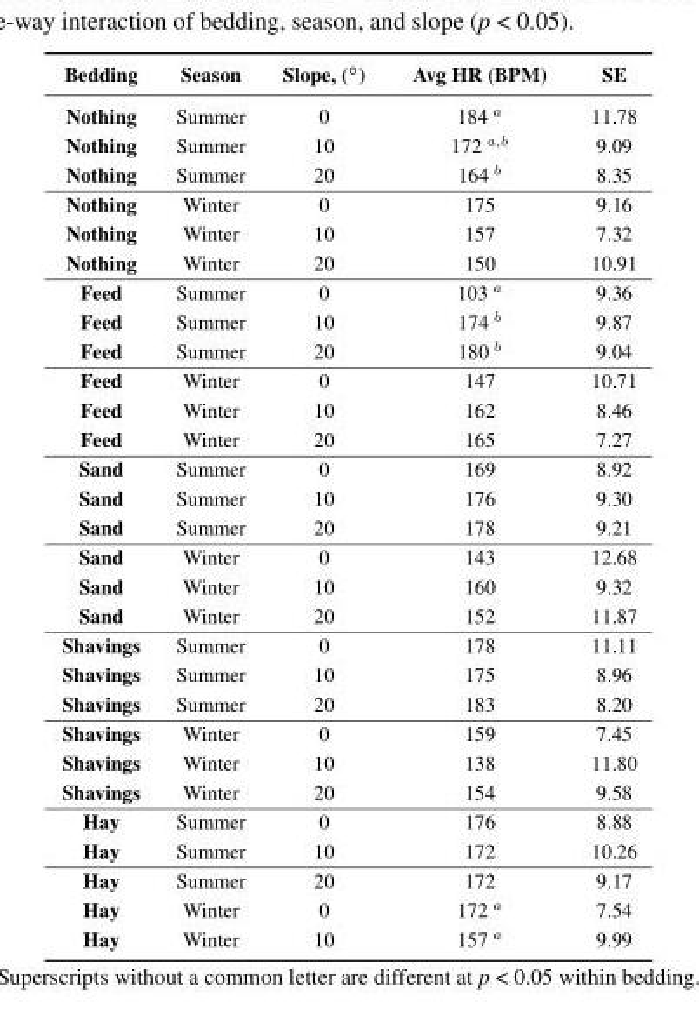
<table><thead><tr><td>Bedding</td><td>Season</td><td>Slope, (◦)</td><td>Avg HR (BPM)</td><td>SE</td></tr></thead><tbody><tr><td>Nothing</td><td>Summer</td><td>0</td><td>184 <sup>a</sup></td><td>11.78</td></tr><tr><td>Nothing</td><td>Summer</td><td>10</td><td>172 <sup>a,b</sup></td><td>9.09</td></tr><tr><td>Nothing</td><td>Summer</td><td>20</td><td>164 <sup>b</sup></td><td>8.35</td></tr><tr><td>Nothing</td><td>Winter</td><td>0</td><td>175</td><td>9.16</td></tr><tr><td>Nothing</td><td>Winter</td><td>10</td><td>157</td><td>7.32</td></tr><tr><td>Nothing</td><td>Winter</td><td>20</td><td>150</td><td>10.91</td></tr><tr><td>Feed</td><td>Summer</td><td>0</td><td>103 <sup>a</sup></td><td>9.36</td></tr><tr><td>Feed</td><td>Summer</td><td>10</td><td>174 <sup>b</sup></td><td>9.87</td></tr><tr><td>Feed</td><td>Summer</td><td>20</td><td>180 <sup>b</sup></td><td>9.04</td></tr><tr><td>Feed</td><td>Winter</td><td>0</td><td>147</td><td>10.71</td></tr><tr><td>Feed</td><td>Winter</td><td>10</td><td>162</td><td>8.46</td></tr><tr><td>Feed</td><td>Winter</td><td>20</td><td>165</td><td>7.27</td></tr><tr><td>Sand</td><td>Summer</td><td>0</td><td>169</td><td>8.92</td></tr><tr><td>Sand</td><td>Summer</td><td>10</td><td>176</td><td>9.30</td></tr><tr><td>Sand</td><td>Summer</td><td>20</td><td>178</td><td>9.21</td></tr><tr><td>Sand</td><td>Winter</td><td>0</td><td>143</td><td>12.68</td></tr><tr><td>Sand</td><td>Winter</td><td>10</td><td>160</td><td>9.32</td></tr><tr><td>Sand</td><td>Winter</td><td>20</td><td>152</td><td>11.87</td></tr><tr><td>Shavings</td><td>Summer</td><td>0</td><td>178</td><td>11.11</td></tr><tr><td>Shavings</td><td>Summer</td><td>10</td><td>175</td><td>8.96</td></tr><tr><td>Shavings</td><td>Summer</td><td>20</td><td>183</td><td>8.20</td></tr><tr><td>Shavings</td><td>Winter</td><td>0</td><td>159</td><td>7.45</td></tr><tr><td>Shavings</td><td>Winter</td><td>10</td><td>138</td><td>11.80</td></tr><tr><td>Shavings</td><td>Winter</td><td>20</td><td>154</td><td>9.58</td></tr><tr><td>Hay</td><td>Summer</td><td>0</td><td>176</td><td>8.88</td></tr><tr><td>Hay</td><td>Summer</td><td>10</td><td>172</td><td>10.26</td></tr><tr><td>Hay</td><td>Summer</td><td>20</td><td>172</td><td>9.17</td></tr><tr><td>Hay</td><td>Winter</td><td>0</td><td>172 <sup>a</sup></td><td>7.54</td></tr><tr><td>Hay</td><td>Winter</td><td>10</td><td>157 <sup>a</sup></td><td>9.99</td></tr></tbody></table>